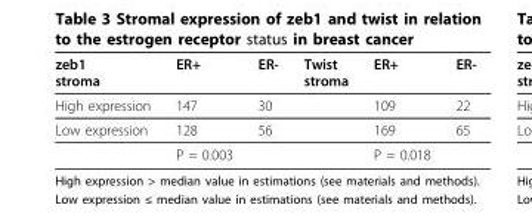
<table><thead><tr><td>zeb1 stroma</td><td>ER+</td><td>ER-</td><td>Twist stroma</td><td>ER+</td><td>ER-</td></tr></thead><tbody><tr><td>High expression</td><td>147</td><td>30</td><td></td><td>109</td><td>22</td></tr><tr><td rowspan="2">Low expression</td><td>128</td><td>56</td><td></td><td>169</td><td>65</td></tr><tr><td>P = 0.003</td><td></td><td></td><td>P = 0.018</td><td></td></tr></tbody></table>